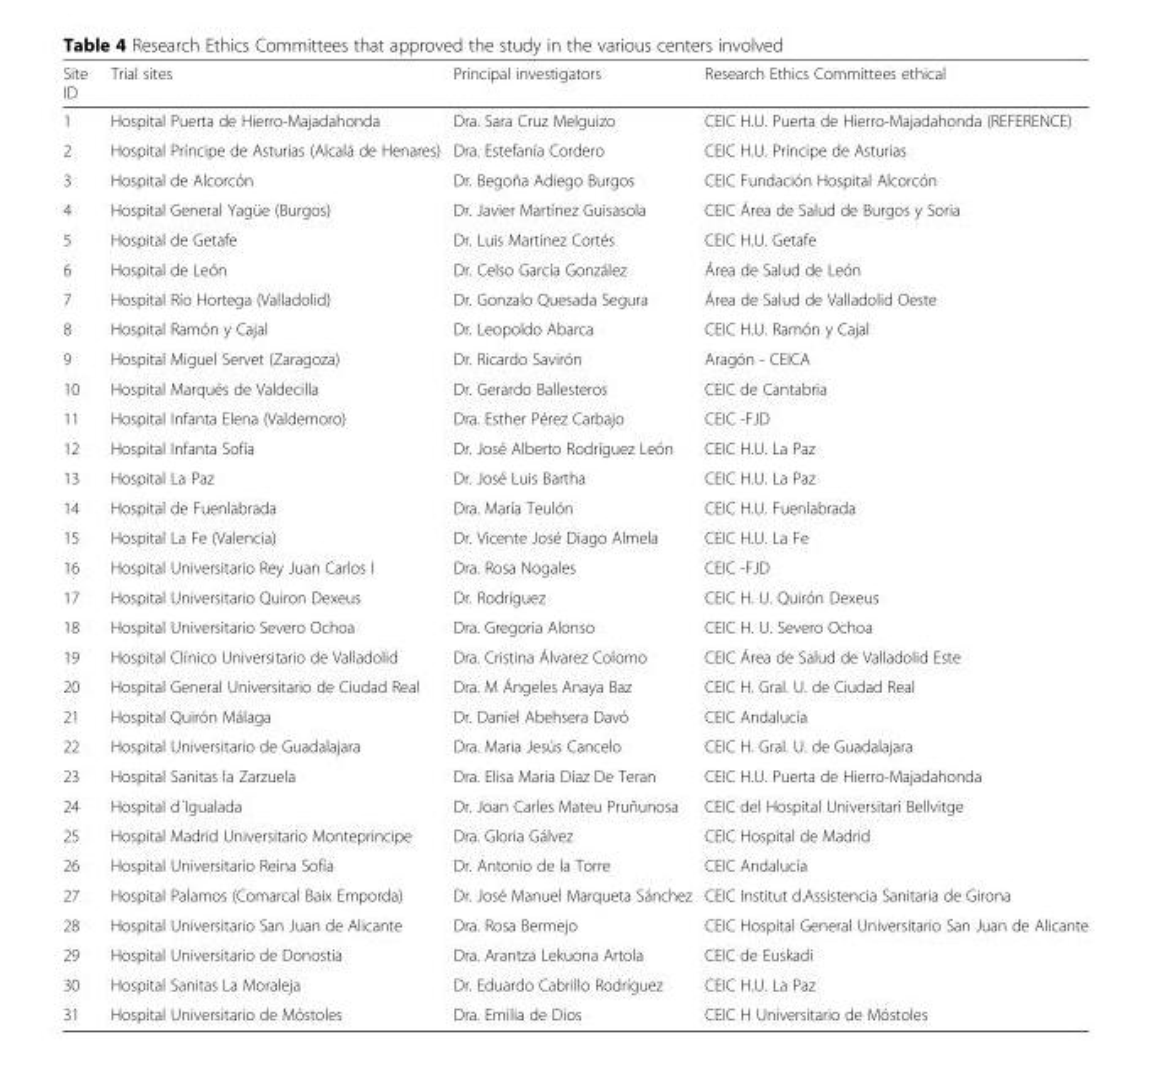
<table><thead><tr><td>Site ID</td><td>Trial sites</td><td>Principal investigators</td><td>Research Ethics Committees ethical</td></tr></thead><tbody><tr><td>1</td><td>Hospital Puerta de Hierro-Majadahonda</td><td>Dra. Sara Cruz Melguizo</td><td>CEIC H.U. Puerta de Hierro-Majadahonda (REFERENCE)</td></tr><tr><td>2</td><td>Hospital Príncipe de Asturias (Alcalá de Henares)</td><td>Dra. Estefanía Cordero</td><td>CEIC H.U. Príncipe de Asturias</td></tr><tr><td>3</td><td>Hospital de Alcorcón</td><td>Dr. Begoña Adiego Burgos</td><td>CEIC Fundación Hospital Alcorcón</td></tr><tr><td>4</td><td>Hospital General Yagüe (Burgos)</td><td>Dr. Javier Martínez Guisasola</td><td>CEIC Área de Salud de Burgos y Soria</td></tr><tr><td>5</td><td>Hospital de Getafe</td><td>Dr. Luis Martínez Cortés</td><td>CEIC H.U. Getafe</td></tr><tr><td>6</td><td>Hospital de León</td><td>Dr. Celso García González</td><td>Área de Salud de León</td></tr><tr><td>7</td><td>Hospital Río Hortega (Valladolid)</td><td>Dr. Gonzalo Quesada Segura</td><td>Área de Salud de Valladolid Oeste</td></tr><tr><td>8</td><td>Hospital Ramón y Cajal</td><td>Dr. Leopoldo Abarca</td><td>CEIC H.U. Ramón y Cajal</td></tr><tr><td>9</td><td>Hospital Miguel Servet (Zaragoza)</td><td>Dr. Ricardo Savirón</td><td>Aragón - CEICA</td></tr><tr><td>10</td><td>Hospital Marqués de Valdecilla</td><td>Dr. Gerardo Ballesteros</td><td>CEIC de Cantabria</td></tr><tr><td>11</td><td>Hospital Infanta Elena (Valdemoro)</td><td>Dra. Esther Pérez Carbajo</td><td>CEIC -FJD</td></tr><tr><td>12</td><td>Hospital Infanta Sofía</td><td>Dr. José Alberto Rodríguez León</td><td>CEIC H.U. La Paz</td></tr><tr><td>13</td><td>Hospital La Paz</td><td>Dr. José Luis Bartha</td><td>CEIC H.U. La Paz</td></tr><tr><td>14</td><td>Hospital de Fuenlabrada</td><td>Dra. María Teulón</td><td>CEIC H.U. Fuenlabrada</td></tr><tr><td>15</td><td>Hospital La Fe (Valencia)</td><td>Dr. Vicente José Diago Almela</td><td>CEIC H.U. La Fe</td></tr><tr><td>16</td><td>Hospital Universitario Rey Juan Carlos I</td><td>Dra. Rosa Nogales</td><td>CEIC -FJD</td></tr><tr><td>17</td><td>Hospital Universitario Quiron Dexeus</td><td>Dr. Rodríguez</td><td>CEIC H. U. Quirón Dexeus</td></tr><tr><td>18</td><td>Hospital Universitario Severo Ochoa</td><td>Dra. Gregoria Alonso</td><td>CEIC H. U. Severo Ochoa</td></tr><tr><td>19</td><td>Hospital Clínico Universitario de Valladolid</td><td>Dra. Cristina Álvarez Colomo</td><td>CEIC Área de Salud de Valladolid Este</td></tr><tr><td>20</td><td>Hospital General Universitario de Ciudad Real</td><td>Dra. M Ángeles Anaya Baz</td><td>CEIC H. Gral. U. de Ciudad Real</td></tr><tr><td>21</td><td>Hospital Quirón Málaga</td><td>Dr. Daniel Abehsera Davó</td><td>CEIC Andalucía</td></tr><tr><td>22</td><td>Hospital Universitario de Guadalajara</td><td>Dra. Maria Jesús Cancelo</td><td>CEIC H. Gral. U. de Guadalajara</td></tr><tr><td>23</td><td>Hospital Sanitas la Zarzuela</td><td>Dra. Elisa Maria Díaz De Teran</td><td>CEIC H.U. Puerta de Hierro-Majadahonda</td></tr><tr><td>24</td><td>Hospital d´Igualada</td><td>Dr. Joan Carles Mateu Pruñunosa</td><td>CEIC del Hospital Universitari Bellvitge</td></tr><tr><td>25</td><td>Hospital Madrid Universitario Monteprincipe</td><td>Dra. Gloria Gálvez</td><td>CEIC Hospital de Madrid</td></tr><tr><td>26</td><td>Hospital Universitario Reina Sofía</td><td>Dr. Antonio de la Torre</td><td>CEIC Andalucía</td></tr><tr><td>27</td><td>Hospital Palamos (Comarcal Baix Emporda)</td><td>Dr. José Manuel Marqueta Sánchez</td><td>CEIC Institut d.Assistencia Sanitaria de Girona</td></tr><tr><td>28</td><td>Hospital Universitario San Juan de Alicante</td><td>Dra. Rosa Bermejo</td><td>CEIC Hospital General Universitario San Juan de Alicante</td></tr><tr><td>29</td><td>Hospital Universitario de Donostia</td><td>Dra. Arantza Lekuona Artola</td><td>CEIC de Euskadi</td></tr><tr><td>30</td><td>Hospital Sanitas La Moraleja</td><td>Dr. Eduardo Cabrillo Rodríguez</td><td>CEIC H.U. La Paz</td></tr><tr><td>31</td><td>Hospital Universitario de Móstoles</td><td>Dra. Emilia de Dios</td><td>CEIC H Universitario de Móstoles</td></tr></tbody></table>